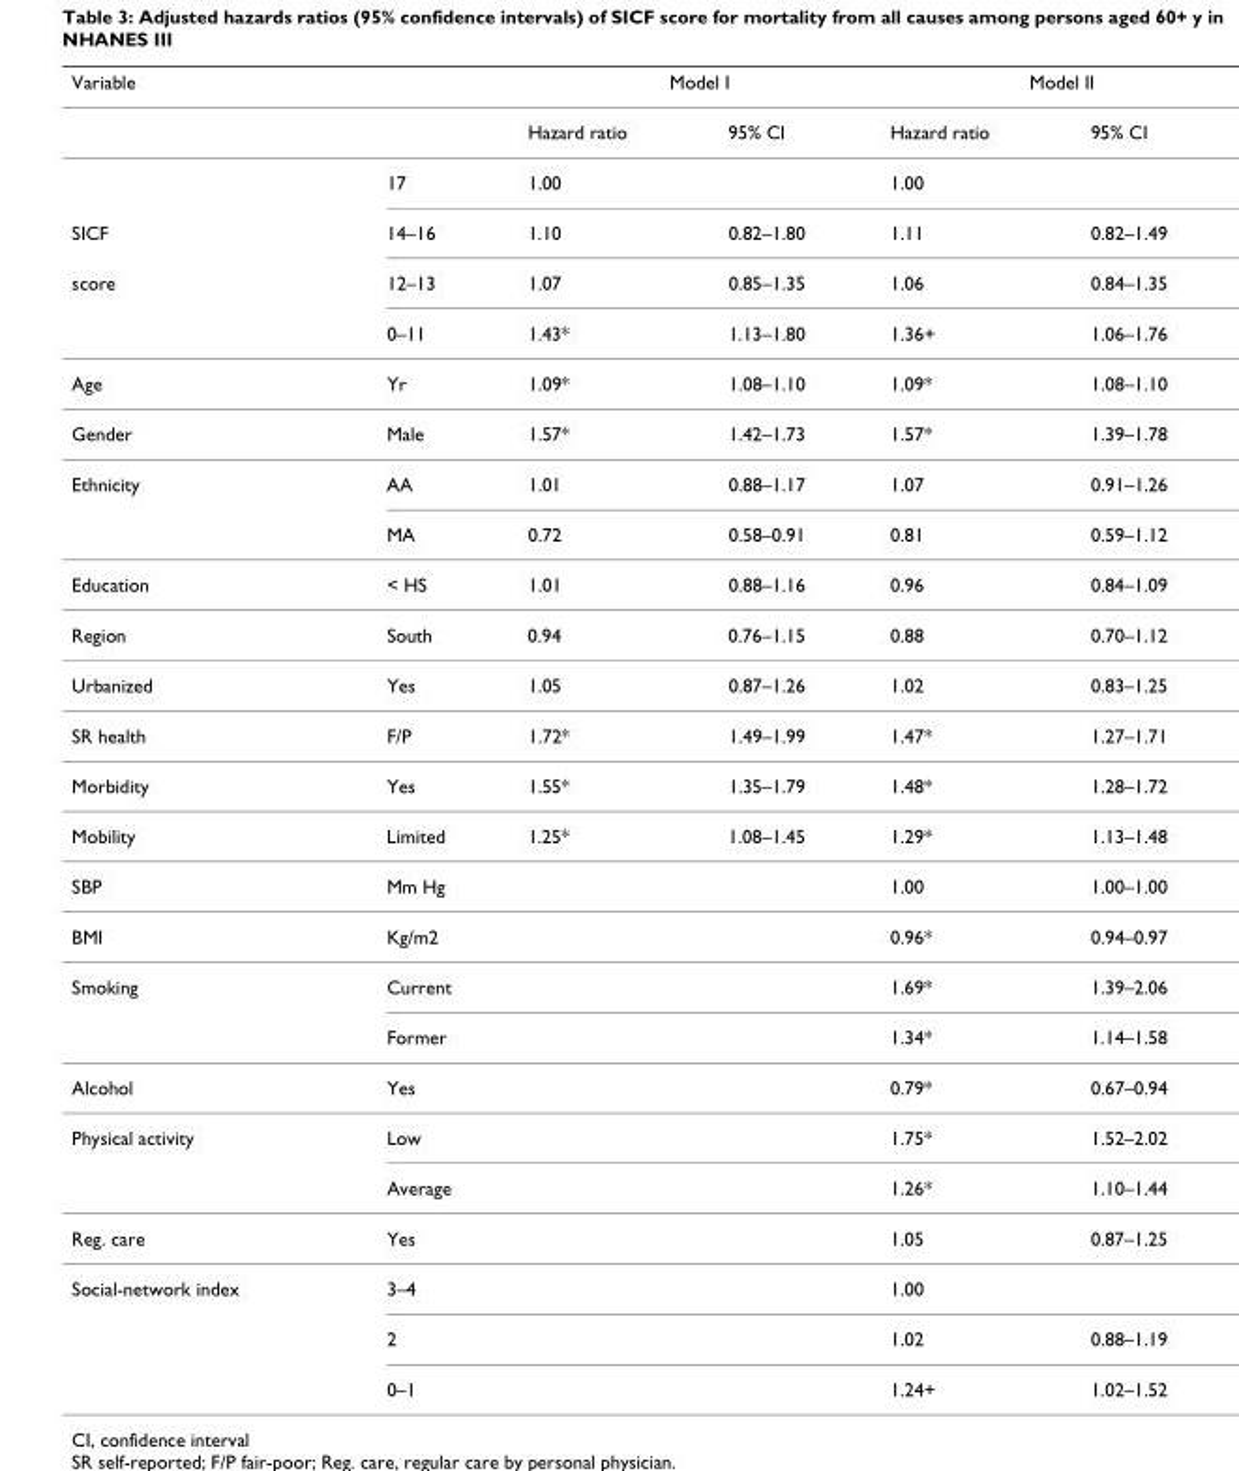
<table><thead><tr><td rowspan="2">Variable</td><td rowspan="2"></td><td colspan="2">Model I</td><td colspan="2">Model II</td></tr><tr><td>Hazard ratio</td><td>95% CI</td><td>Hazard ratio</td><td>95% CI</td></tr></thead><tbody><tr><td></td><td>17</td><td>1.00</td><td></td><td>1.00</td><td></td></tr><tr><td>SICF</td><td>14–16</td><td>1.10</td><td>0.82–1.80</td><td>1.11</td><td>0.82–1.49</td></tr><tr><td rowspan="2">score</td><td>12–13</td><td>1.07</td><td>0.85–1.35</td><td>1.06</td><td>0.84–1.35</td></tr><tr><td>0–11</td><td>1.43*</td><td>1.13–1.80</td><td>1.36+</td><td>1.06–1.76</td></tr><tr><td>Age</td><td>Yr</td><td>1.09*</td><td>1.08–1.10</td><td>1.09*</td><td>1.08–1.10</td></tr><tr><td>Gender</td><td>Male</td><td>1.57*</td><td>1.42–1.73</td><td>1.57*</td><td>1.39–1.78</td></tr><tr><td rowspan="2">Ethnicity</td><td>AA</td><td>1.01</td><td>0.88–1.17</td><td>1.07</td><td>0.91–1.26</td></tr><tr><td>MA</td><td>0.72</td><td>0.58–0.91</td><td>0.81</td><td>0.59–1.12</td></tr><tr><td>Education</td><td>&lt; HS</td><td>1.01</td><td>0.88–1.16</td><td>0.96</td><td>0.84–1.09</td></tr><tr><td>Region</td><td>South</td><td>0.94</td><td>0.76–1.15</td><td>0.88</td><td>0.70–1.12</td></tr><tr><td>Urbanized</td><td>Yes</td><td>1.05</td><td>0.87–1.26</td><td>1.02</td><td>0.83–1.25</td></tr><tr><td>SR health</td><td>F/P</td><td>1.72*</td><td>1.49–1.99</td><td>1.47*</td><td>1.27–1.71</td></tr><tr><td>Morbidity</td><td>Yes</td><td>1.55*</td><td>1.35–1.79</td><td>1.48*</td><td>1.28–1.72</td></tr><tr><td>Mobility</td><td>Limited</td><td>1.25*</td><td>1.08–1.45</td><td>1.29*</td><td>1.13–1.48</td></tr><tr><td>SBP</td><td>Mm Hg</td><td></td><td></td><td>1.00</td><td>1.00–1.00</td></tr><tr><td>BMI</td><td>Kg/m2</td><td></td><td></td><td>0.96*</td><td>0.94–0.97</td></tr><tr><td rowspan="2">Smoking</td><td>Current</td><td></td><td></td><td>1.69*</td><td>1.39–2.06</td></tr><tr><td>Former</td><td></td><td></td><td>1.34*</td><td>1.14–1.58</td></tr><tr><td>Alcohol</td><td>Yes</td><td></td><td></td><td>0.79*</td><td>0.67–0.94</td></tr><tr><td rowspan="2">Physical activity</td><td>Low</td><td></td><td></td><td>1.75*</td><td>1.52–2.02</td></tr><tr><td>Average</td><td></td><td></td><td>1.26*</td><td>1.10–1.44</td></tr><tr><td>Reg. care</td><td>Yes</td><td></td><td></td><td>1.05</td><td>0.87–1.25</td></tr><tr><td rowspan="3">Social-network index</td><td>3–4</td><td></td><td></td><td>1.00</td><td></td></tr><tr><td>2</td><td></td><td></td><td>1.02</td><td>0.88–1.19</td></tr><tr><td>0–1</td><td></td><td></td><td>1.24+</td><td>1.02–1.52</td></tr></tbody></table>